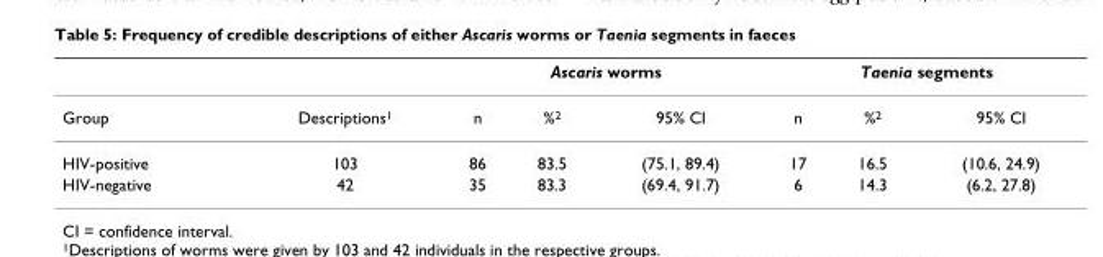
<table><thead><tr><td rowspan="2">Group</td><td rowspan="2">Descriptions<sup>1</sup></td><td colspan="3">Ascaris worms</td><td colspan="3">Taenia segments</td></tr><tr><td>n</td><td>%<sup>2</sup></td><td>95% CI</td><td>n</td><td>%<sup>2</sup></td><td>95% CI</td></tr></thead><tbody><tr><td>HIV-positive</td><td>103</td><td>86</td><td>83.5</td><td>(75.1, 89.4)</td><td>17</td><td>16.5</td><td>(10.6, 24.9)</td></tr><tr><td>HIV-negative</td><td>42</td><td>35</td><td>83.3</td><td>(69.4, 91.7)</td><td>6</td><td>14.3</td><td>(6.2, 27.8)</td></tr></tbody></table>